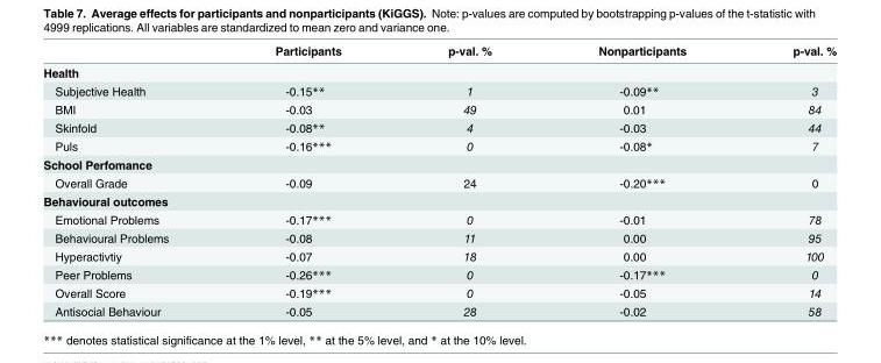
<table><thead><tr><td></td><td>Participants</td><td>p-val. %</td><td>Nonparticipants</td><td>p-val. %</td></tr></thead><tbody><tr><td colspan="5">Health</td></tr><tr><td>Subjective Health</td><td>-0.15**</td><td>1</td><td>-0.09**</td><td>3</td></tr><tr><td>BMI</td><td>-0.03</td><td>49</td><td>0.01</td><td>84</td></tr><tr><td>Skinfold</td><td>-0.08**</td><td>4</td><td>-0.03</td><td>44</td></tr><tr><td>Puls</td><td>-0.16***</td><td>0</td><td>-0.08*</td><td>7</td></tr><tr><td colspan="5">School Perfomance</td></tr><tr><td>Overall Grade</td><td>-0.09</td><td>24</td><td>-0.20***</td><td>0</td></tr><tr><td colspan="5">Behavioural outcomes</td></tr><tr><td>Emotional Problems</td><td>-0.17***</td><td>0</td><td>-0.01</td><td>78</td></tr><tr><td>Behavioural Problems</td><td>-0.08</td><td>11</td><td>0.00</td><td>95</td></tr><tr><td>Hyperactivtiy</td><td>-0.07</td><td>18</td><td>0.00</td><td>100</td></tr><tr><td>Peer Problems</td><td>-0.26***</td><td>0</td><td>-0.17***</td><td>0</td></tr><tr><td>Overall Score</td><td>-0.19***</td><td>0</td><td>-0.05</td><td>14</td></tr><tr><td>Antisocial Behaviour</td><td>-0.05</td><td>28</td><td>-0.02</td><td>58</td></tr></tbody></table>